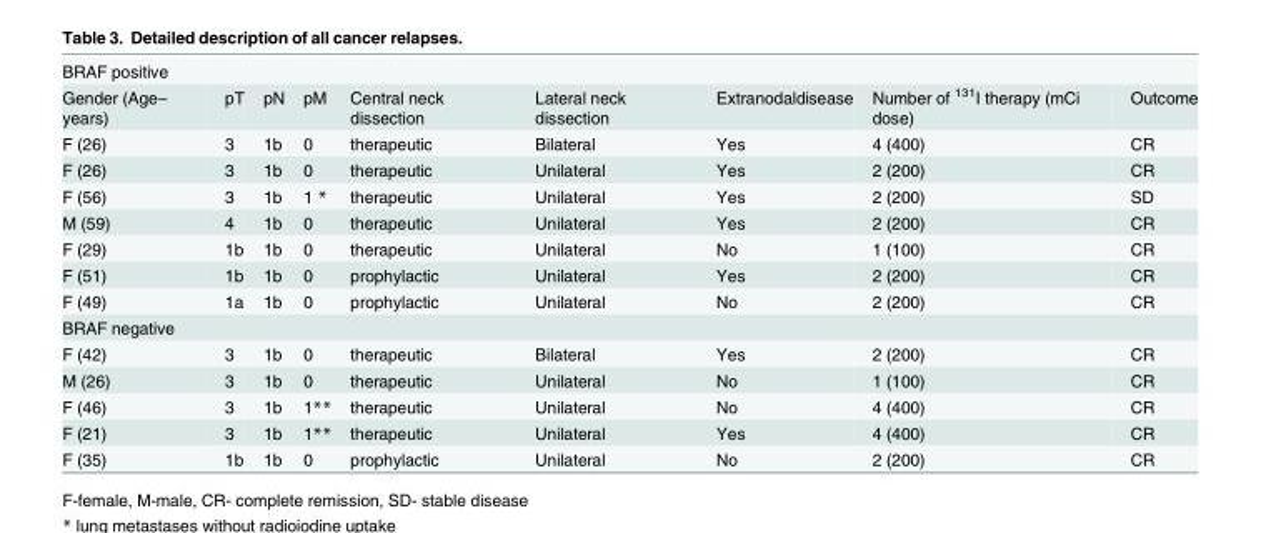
<table><tbody><tr><td colspan="9">BRAF positive</td></tr><tr><td>Gender (Age– years)</td><td>pT</td><td>pN</td><td>pM</td><td>Central neck dissection</td><td>Lateral neck dissection</td><td>Extranodaldisease</td><td>Number of <sup>131</sup>I therapy (mCi dose)</td><td>Outcome</td></tr><tr><td>F (26)</td><td>3</td><td>1b</td><td>0</td><td>therapeutic</td><td>Bilateral</td><td>Yes</td><td>4 (400)</td><td>CR</td></tr><tr><td>F (26)</td><td>3</td><td>1b</td><td>0</td><td>therapeutic</td><td>Unilateral</td><td>Yes</td><td>2 (200)</td><td>CR</td></tr><tr><td>F (56)</td><td>3</td><td>1b</td><td>1 *</td><td>therapeutic</td><td>Unilateral</td><td>Yes</td><td>2 (200)</td><td>SD</td></tr><tr><td>M (59)</td><td>4</td><td>1b</td><td>0</td><td>therapeutic</td><td>Unilateral</td><td>Yes</td><td>2 (200)</td><td>CR</td></tr><tr><td>F (29)</td><td>1b</td><td>1b</td><td>0</td><td>therapeutic</td><td>Unilateral</td><td>No</td><td>1 (100)</td><td>CR</td></tr><tr><td>F (51)</td><td>1b</td><td>1b</td><td>0</td><td>prophylactic</td><td>Unilateral</td><td>Yes</td><td>2 (200)</td><td>CR</td></tr><tr><td>F (49)</td><td>1a</td><td>1b</td><td>0</td><td>prophylactic</td><td>Unilateral</td><td>No</td><td>2 (200)</td><td>CR</td></tr><tr><td colspan="9">BRAF negative</td></tr><tr><td>F (42)</td><td>3</td><td>1b</td><td>0</td><td>therapeutic</td><td>Bilateral</td><td>Yes</td><td>2 (200)</td><td>CR</td></tr><tr><td>M (26)</td><td>3</td><td>1b</td><td>0</td><td>therapeutic</td><td>Unilateral</td><td>No</td><td>1 (100)</td><td>CR</td></tr><tr><td>F (46)</td><td>3</td><td>1b</td><td>1**</td><td>therapeutic</td><td>Unilateral</td><td>No</td><td>4 (400)</td><td>CR</td></tr><tr><td>F (21)</td><td>3</td><td>1b</td><td>1**</td><td>therapeutic</td><td>Unilateral</td><td>Yes</td><td>4 (400)</td><td>CR</td></tr><tr><td>F (35)</td><td>1b</td><td>1b</td><td>0</td><td>prophylactic</td><td>Unilateral</td><td>No</td><td>2 (200)</td><td>CR</td></tr></tbody></table>